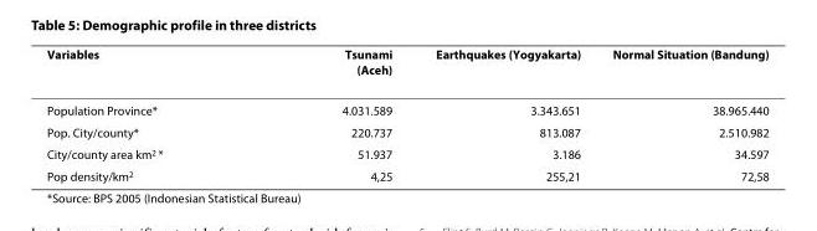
<table><thead><tr><td>Variables</td><td>Tsunami (Aceh)</td><td>Earthquakes (Yogyakarta)</td><td>Normal Situation (Bandung)</td></tr></thead><tbody><tr><td>Population Province*</td><td>4.031.589</td><td>3.343.651</td><td>38.965.440</td></tr><tr><td>Pop. City/county*</td><td>220.737</td><td>813.087</td><td>2.510.982</td></tr><tr><td>City/county area km<sup>2</sup> *</td><td>51.937</td><td>3.186</td><td>34.597</td></tr><tr><td>Pop density/km<sup>2</sup></td><td>4,25</td><td>255,21</td><td>72,58</td></tr></tbody></table>